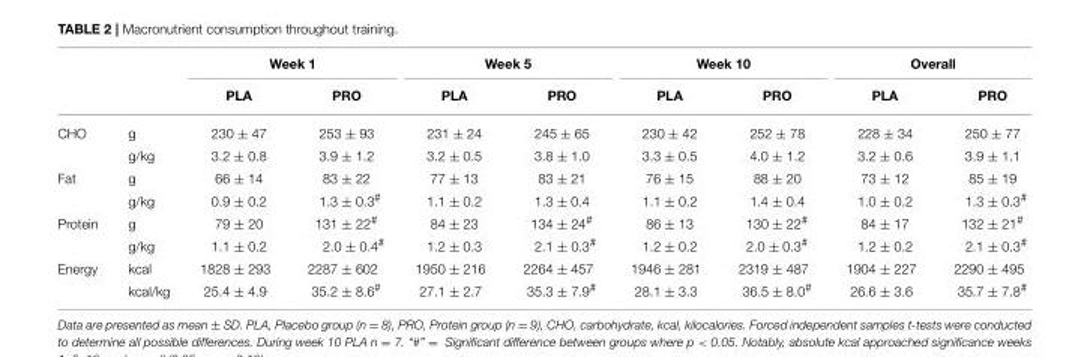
<table><thead><tr><td rowspan="2"></td><td rowspan="2"></td><td colspan="2">Week 1</td><td colspan="2">Week 5</td><td colspan="2">Week 10</td><td colspan="2">Overall</td></tr><tr><td>PLA</td><td>PRO</td><td>PLA</td><td>PRO</td><td>PLA</td><td>PRO</td><td>PLA</td><td>PRO</td></tr></thead><tbody><tr><td rowspan="2">CHO</td><td>g</td><td>230 ± 47</td><td>253 ± 93</td><td>231 ± 24</td><td>245 ± 65</td><td>230 ± 42</td><td>252 ± 78</td><td>228 ± 34</td><td>250 ± 77</td></tr><tr><td>g/kg</td><td>3.2 ± 0.8</td><td>3.9 ± 1.2</td><td>3.2 ± 0.5</td><td>3.8 ± 1.0</td><td>3.3 ± 0.5</td><td>4.0 ± 1.2</td><td>3.2 ± 0.6</td><td>3.9 ± 1.1</td></tr><tr><td rowspan="2">Fat</td><td>g</td><td>66 ± 14</td><td>83 ± 22</td><td>77 ± 13</td><td>83 ± 21</td><td>76 ± 15</td><td>88 ± 20</td><td>73 ± 12</td><td>85 ± 19</td></tr><tr><td>g/kg</td><td>0.9 ± 0.2</td><td>1.3 ± 0.3<sup>#</sup></td><td>1.1 ± 0.2</td><td>1.3 ± 0.4</td><td>1.1 ± 0.2</td><td>1.4 ± 0.4</td><td>1.0 ± 0.2</td><td>1.3 ± 0.3<sup>#</sup></td></tr><tr><td rowspan="2">Protein</td><td>g</td><td>79 ± 20</td><td>131 ± 22<sup>#</sup></td><td>84 ± 23</td><td>134 ± 24<sup>#</sup></td><td>86 ± 13</td><td>130 ± 22<sup>#</sup></td><td>84 ± 17</td><td>132 ± 21<sup>#</sup></td></tr><tr><td>g/kg</td><td>1.1 ± 0.2</td><td>2.0 ± 0.4<sup>#</sup></td><td>1.2 ± 0.3</td><td>2.1 ± 0.3<sup>#</sup></td><td>1.2 ± 0.2</td><td>2.0 ± 0.3<sup>#</sup></td><td>1.2 ± 0.2</td><td>2.1 ± 0.3<sup>#</sup></td></tr><tr><td rowspan="2">Energy</td><td>kcal</td><td>1828 ± 293</td><td>2287 ± 602</td><td>1950 ± 216</td><td>2264 ± 457</td><td>1946 ± 281</td><td>2319 ± 487</td><td>1904 ± 227</td><td>2290 ± 495</td></tr><tr><td>kcal/kg</td><td>25.4 ± 4.9</td><td>35.2 ± 8.6<sup>#</sup></td><td>27.1 ± 2.7</td><td>35.3 ± 7.9<sup>#</sup></td><td>28.1 ± 3.3</td><td>36.5 ± 8.0<sup>#</sup></td><td>26.6 ± 3.6</td><td>35.7 ± 7.8<sup>#</sup></td></tr></tbody></table>